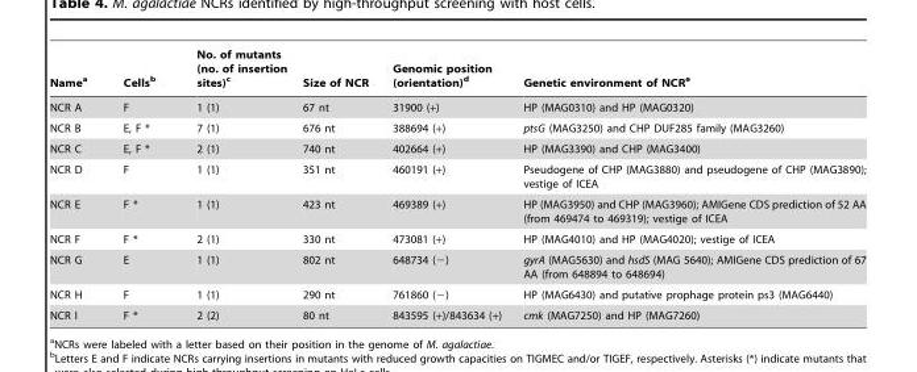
<table><thead><tr><td>Name<sup>a</sup></td><td>Cells<sup>b</sup></td><td>No. of mutants (no. of insertion sites)<sup>c</sup></td><td>Size of NCR</td><td>Genomic position (orientation)<sup>d</sup></td><td>Genetic environment of NCR<sup>e</sup></td></tr></thead><tbody><tr><td>NCR A</td><td>F</td><td>1 (1)</td><td>67 nt</td><td>31900 (+)</td><td>HP (MAG0310) and HP (MAG0320)</td></tr><tr><td>NCR B</td><td>E, F *</td><td>7 (1)</td><td>676 nt</td><td>388694 (+)</td><td>ptsG (MAG3250) and CHP DUF285 family (MAG3260)</td></tr><tr><td>NCR C</td><td>E, F *</td><td>2 (1)</td><td>740 nt</td><td>402664 (+)</td><td>HP (MAG3390) and CHP (MAG3400)</td></tr><tr><td>NCR D</td><td>F</td><td>1 (1)</td><td>351 nt</td><td>460191 (+)</td><td>Pseudogene of CHP (MAG3880) and pseudogene of CHP (MAG3890); vestige of ICEA</td></tr><tr><td>NCR E</td><td>F *</td><td>1 (1)</td><td>423 nt</td><td>469389 (+)</td><td>HP (MAG3950) and CHP (MAG3960); AMIGene CDS prediction of 52 AA (from 469474 to 469319); vestige of ICEA</td></tr><tr><td>NCR F</td><td>F *</td><td>2 (1)</td><td>330 nt</td><td>473081 (+)</td><td>HP (MAG4010) and HP (MAG4020); vestige of ICEA</td></tr><tr><td>NCR G</td><td>E</td><td>1 (1)</td><td>802 nt</td><td>648734 (−)</td><td>gyrA (MAG5630) and hsdS (MAG 5640); AMIGene CDS prediction of 67 AA (from 648894 to 648694)</td></tr><tr><td>NCR H</td><td>F</td><td>1 (1)</td><td>290 nt</td><td>761860 (−)</td><td>HP (MAG6430) and putative prophage protein ps3 (MAG6440)</td></tr><tr><td>NCR I</td><td>F *</td><td>2 (2)</td><td>80 nt</td><td>843595 (+)/843634 (+)</td><td>cmk (MAG7250) and HP (MAG7260)</td></tr></tbody></table>